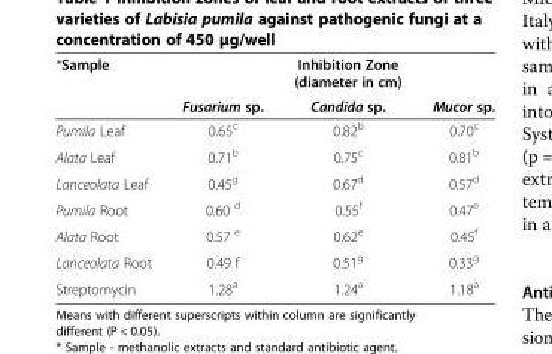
<table><thead><tr><td rowspan="2">*Sample</td><td rowspan="2">Fusarium sp.</td><td rowspan="2">Inhibition Zone (diameter in cm) Candida sp.</td><td rowspan="2">Mucor sp.</td></tr><tr></tr></thead><tbody><tr><td>Pumila Leaf</td><td>0.65<sup>c</sup></td><td>0.82<sup>b</sup></td><td>0.70<sup>c</sup></td></tr><tr><td>Alata Leaf</td><td>0.71<sup>b</sup></td><td>0.75<sup>c</sup></td><td>0.81<sup>b</sup></td></tr><tr><td>Lanceolata Leaf</td><td>0.45<sup>g</sup></td><td>0.67<sup>d</sup></td><td>0.57<sup>d</sup></td></tr><tr><td>Pumila Root</td><td>0.60 <sup>d</sup></td><td>0.55<sup>f</sup></td><td>0.47<sup>e</sup></td></tr><tr><td>Alata Root</td><td>0.57 <sup>e</sup></td><td>0.62<sup>e</sup></td><td>0.45<sup>f</sup></td></tr><tr><td>Lanceolata Root</td><td>0.49 f</td><td>0.51<sup>g</sup></td><td>0.33<sup>g</sup></td></tr><tr><td>Streptomycin</td><td>1.28<sup>a</sup></td><td>1.24<sup>a</sup></td><td>1.18<sup>a</sup></td></tr></tbody></table>